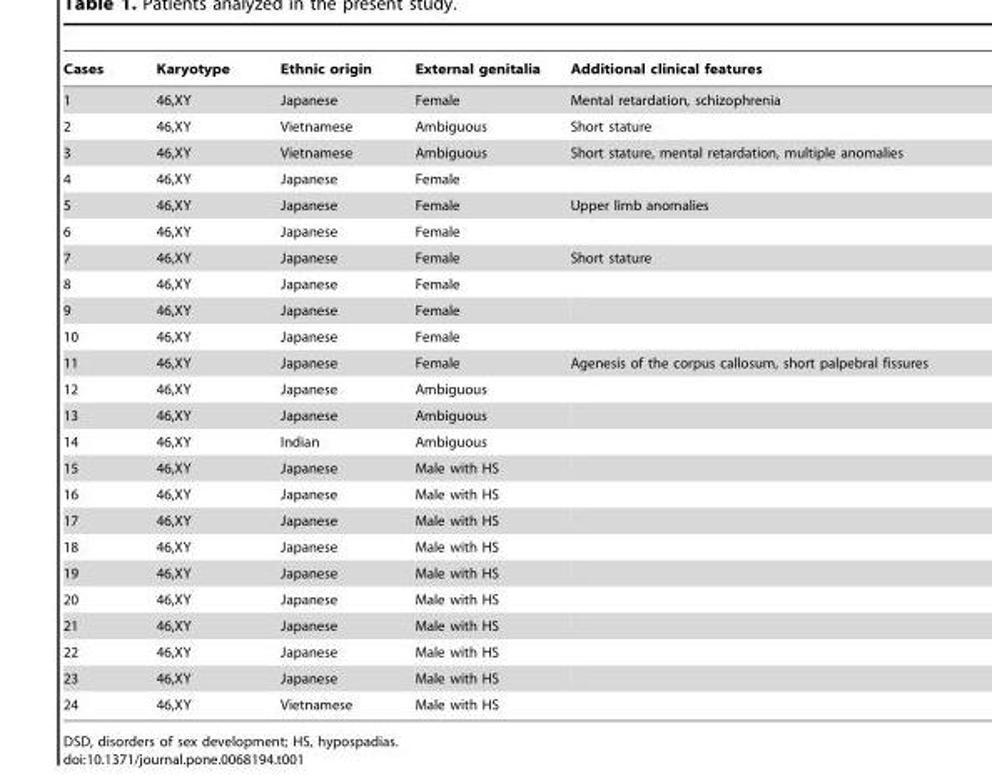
<table><thead><tr><td>Cases</td><td>Karyotype</td><td>Ethnic origin</td><td>External genitalia</td><td>Additional clinical features</td></tr></thead><tbody><tr><td>1</td><td>46,XY</td><td>Japanese</td><td>Female</td><td>Mental retardation, schizophrenia</td></tr><tr><td>2</td><td>46,XY</td><td>Vietnamese</td><td>Ambiguous</td><td>Short stature</td></tr><tr><td>3</td><td>46,XY</td><td>Vietnamese</td><td>Ambiguous</td><td>Short stature, mental retardation, multiple anomalies</td></tr><tr><td>4</td><td>46,XY</td><td>Japanese</td><td>Female</td><td></td></tr><tr><td>5</td><td>46,XY</td><td>Japanese</td><td>Female</td><td>Upper limb anomalies</td></tr><tr><td>6</td><td>46,XY</td><td>Japanese</td><td>Female</td><td></td></tr><tr><td>7</td><td>46,XY</td><td>Japanese</td><td>Female</td><td>Short stature</td></tr><tr><td>8</td><td>46,XY</td><td>Japanese</td><td>Female</td><td></td></tr><tr><td>9</td><td>46,XY</td><td>Japanese</td><td>Female</td><td></td></tr><tr><td>10</td><td>46,XY</td><td>Japanese</td><td>Female</td><td></td></tr><tr><td>11</td><td>46,XY</td><td>Japanese</td><td>Female</td><td>Agenesis of the corpus callosum, short palpebral fissures</td></tr><tr><td>12</td><td>46,XY</td><td>Japanese</td><td>Ambiguous</td><td></td></tr><tr><td>13</td><td>46,XY</td><td>Japanese</td><td>Ambiguous</td><td></td></tr><tr><td>14</td><td>46,XY</td><td>Indian</td><td>Ambiguous</td><td></td></tr><tr><td>15</td><td>46,XY</td><td>Japanese</td><td>Male with HS</td><td></td></tr><tr><td>16</td><td>46,XY</td><td>Japanese</td><td>Male with HS</td><td></td></tr><tr><td>17</td><td>46,XY</td><td>Japanese</td><td>Male with HS</td><td></td></tr><tr><td>18</td><td>46,XY</td><td>Japanese</td><td>Male with HS</td><td></td></tr><tr><td>19</td><td>46,XY</td><td>Japanese</td><td>Male with HS</td><td></td></tr><tr><td>20</td><td>46,XY</td><td>Japanese</td><td>Male with HS</td><td></td></tr><tr><td>21</td><td>46,XY</td><td>Japanese</td><td>Male with HS</td><td></td></tr><tr><td>22</td><td>46,XY</td><td>Japanese</td><td>Male with HS</td><td></td></tr><tr><td>23</td><td>46,XY</td><td>Japanese</td><td>Male with HS</td><td></td></tr><tr><td>24</td><td>46,XY</td><td>Vietnamese</td><td>Male with HS</td><td></td></tr></tbody></table>